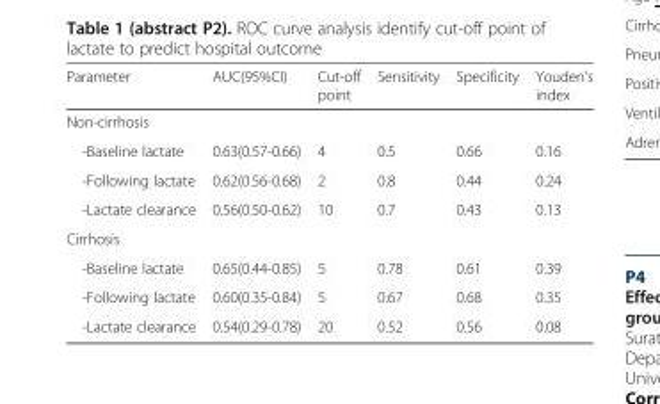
<table><thead><tr><td>Parameter</td><td>AUC(95%CI)</td><td>Cut-off point</td><td>Sensitivity</td><td>Specificity</td><td>Youden’s index</td></tr></thead><tbody><tr><td colspan="6">Non-cirrhosis</td></tr><tr><td>-Baseline lactate</td><td>0.63(0.57-0.66)</td><td>4</td><td>0.5</td><td>0.66</td><td>0.16</td></tr><tr><td>-Following lactate</td><td>0.62(0.56-0.68)</td><td>2</td><td>0.8</td><td>0.44</td><td>0.24</td></tr><tr><td>-Lactate clearance</td><td>0.56(0.50-0.62)</td><td>10</td><td>0.7</td><td>0.43</td><td>0.13</td></tr><tr><td colspan="6">Cirrhosis</td></tr><tr><td>-Baseline lactate</td><td>0.65(0.44-0.85)</td><td>5</td><td>0.78</td><td>0.61</td><td>0.39</td></tr><tr><td>-Following lactate</td><td>0.60(0.35-0.84)</td><td>5</td><td>0.67</td><td>0.68</td><td>0.35</td></tr><tr><td>-Lactate clearance</td><td>0.54(0.29-0.78)</td><td>20</td><td>0.52</td><td>0.56</td><td>0.08</td></tr></tbody></table>